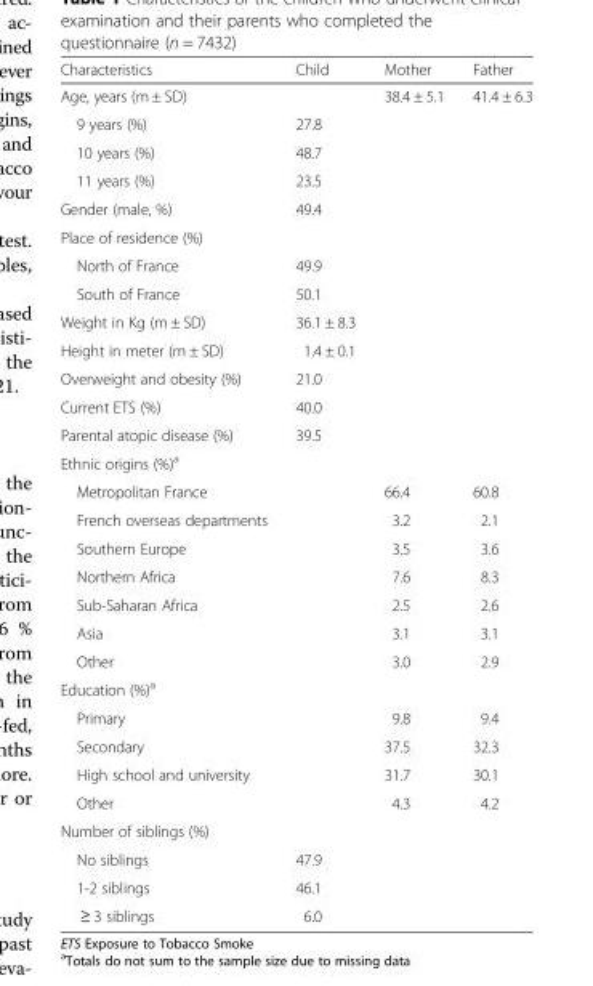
<table><thead><tr><td>Characteristics</td><td>Child</td><td>Mother</td><td>Father</td></tr></thead><tbody><tr><td>Age, years (m ± SD)</td><td></td><td>38.4 ± 5.1</td><td>41.4 ± 6.3</td></tr><tr><td>9 years (%)</td><td>27.8</td><td></td><td></td></tr><tr><td>10 years (%)</td><td>48.7</td><td></td><td></td></tr><tr><td>11 years (%)</td><td>23.5</td><td></td><td></td></tr><tr><td>Gender (male, %)</td><td>49.4</td><td></td><td></td></tr><tr><td colspan="4">Place of residence (%)</td></tr><tr><td>North of France</td><td>49.9</td><td></td><td></td></tr><tr><td>South of France</td><td>50.1</td><td></td><td></td></tr><tr><td>Weight in Kg (m ± SD)</td><td>36.1 ± 8.3</td><td></td><td></td></tr><tr><td>Height in meter (m ± SD)</td><td>1.4 ± 0.1</td><td></td><td></td></tr><tr><td>Overweight and obesity (%)</td><td>21.0</td><td></td><td></td></tr><tr><td>Current ETS (%)</td><td>40.0</td><td></td><td></td></tr><tr><td>Parental atopic disease (%)</td><td>39.5</td><td></td><td></td></tr><tr><td colspan="4">Ethnic origins (%)<sup>a</sup></td></tr><tr><td>Metropolitan France</td><td></td><td>66.4</td><td>60.8</td></tr><tr><td>French overseas departments</td><td></td><td>3.2</td><td>2.1</td></tr><tr><td>Southern Europe</td><td></td><td>3.5</td><td>3.6</td></tr><tr><td>Northern Africa</td><td></td><td>7.6</td><td>8.3</td></tr><tr><td>Sub-Saharan Africa</td><td></td><td>2.5</td><td>2.6</td></tr><tr><td>Asia</td><td></td><td>3.1</td><td>3.1</td></tr><tr><td>Other</td><td></td><td>3.0</td><td>2.9</td></tr><tr><td colspan="4">Education (%)<sup>a</sup></td></tr><tr><td>Primary</td><td></td><td>9.8</td><td>9.4</td></tr><tr><td>Secondary</td><td></td><td>37.5</td><td>32.3</td></tr><tr><td>High school and university</td><td></td><td>31.7</td><td>30.1</td></tr><tr><td>Other</td><td></td><td>4.3</td><td>4.2</td></tr><tr><td colspan="4">Number of siblings (%)</td></tr><tr><td>No siblings</td><td>47.9</td><td></td><td></td></tr><tr><td>1-2 siblings</td><td>46.1</td><td></td><td></td></tr><tr><td>≥ 3 siblings</td><td>6.0</td><td></td><td></td></tr></tbody></table>